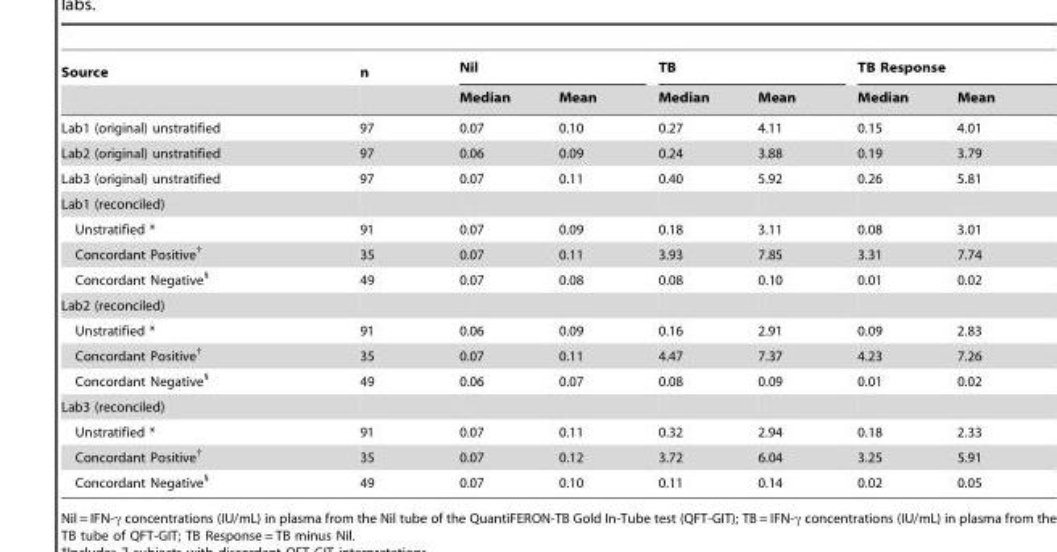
<table><thead><tr><td rowspan="2">Source</td><td rowspan="2">n</td><td colspan="2">Nil</td><td colspan="2">TB</td><td colspan="2">TB Response</td></tr><tr><td>Median</td><td>Mean</td><td>Median</td><td>Mean</td><td>Median</td><td>Mean</td></tr></thead><tbody><tr><td>Lab1 (original) unstratified</td><td>97</td><td>0.07</td><td>0.10</td><td>0.27</td><td>4.11</td><td>0.15</td><td>4.01</td></tr><tr><td>Lab2 (original) unstratified</td><td>97</td><td>0.06</td><td>0.09</td><td>0.24</td><td>3.88</td><td>0.19</td><td>3.79</td></tr><tr><td>Lab3 (original) unstratified</td><td>97</td><td>0.07</td><td>0.11</td><td>0.40</td><td>5.92</td><td>0.26</td><td>5.81</td></tr><tr><td colspan="8">Lab1 (reconciled)</td></tr><tr><td>Unstratified *</td><td>91</td><td>0.07</td><td>0.09</td><td>0.18</td><td>3.11</td><td>0.08</td><td>3.01</td></tr><tr><td>Concordant Positive†</td><td>35</td><td>0.07</td><td>0.11</td><td>3.93</td><td>7.85</td><td>3.31</td><td>7.74</td></tr><tr><td>Concordant Negative§</td><td>49</td><td>0.07</td><td>0.08</td><td>0.08</td><td>0.10</td><td>0.01</td><td>0.02</td></tr><tr><td colspan="8">Lab2 (reconciled)</td></tr><tr><td>Unstratified *</td><td>91</td><td>0.06</td><td>0.09</td><td>0.16</td><td>2.91</td><td>0.09</td><td>2.83</td></tr><tr><td>Concordant Positive†</td><td>35</td><td>0.07</td><td>0.11</td><td>4.47</td><td>7.37</td><td>4.23</td><td>7.26</td></tr><tr><td>Concordant Negative§</td><td>49</td><td>0.06</td><td>0.07</td><td>0.08</td><td>0.09</td><td>0.01</td><td>0.02</td></tr><tr><td colspan="8">Lab3 (reconciled)</td></tr><tr><td>Unstratified *</td><td>91</td><td>0.07</td><td>0.11</td><td>0.32</td><td>2.94</td><td>0.18</td><td>2.33</td></tr><tr><td>Concordant Positive†</td><td>35</td><td>0.07</td><td>0.12</td><td>3.72</td><td>6.04</td><td>3.25</td><td>5.91</td></tr><tr><td>Concordant Negative§</td><td>49</td><td>0.07</td><td>0.10</td><td>0.11</td><td>0.14</td><td>0.02</td><td>0.05</td></tr></tbody></table>